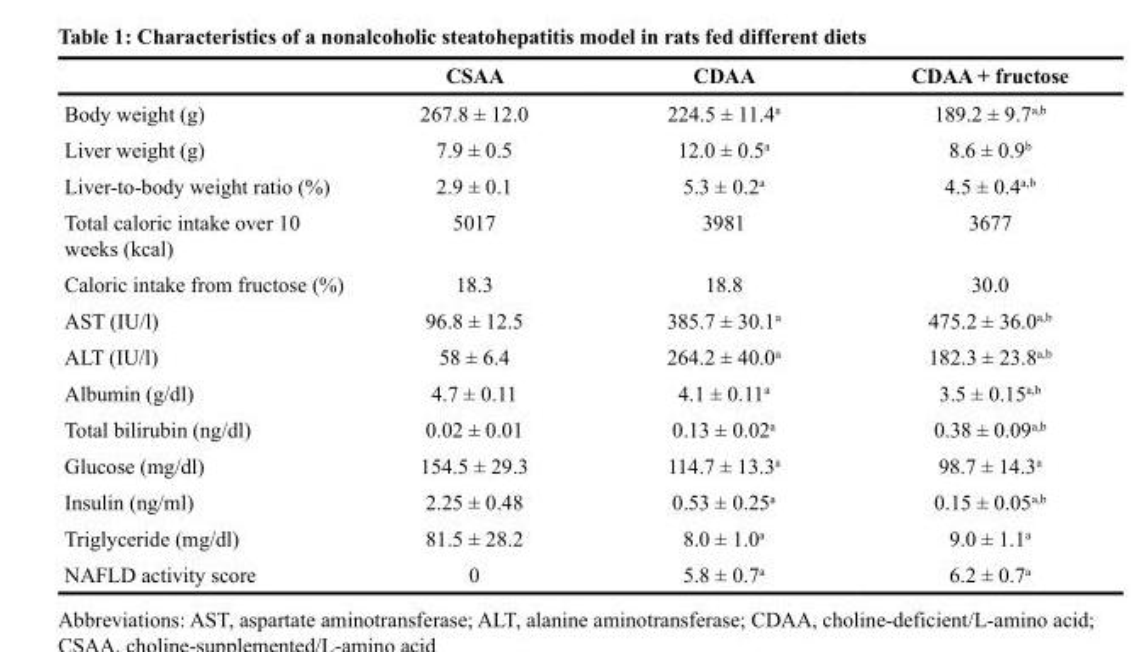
<table><thead><tr><td></td><td>CSAA</td><td>CDAA</td><td>CDAA + fructose</td></tr></thead><tbody><tr><td>Body weight (g)</td><td>267.8 ± 12.0</td><td>224.5 ± 11.4<sup>a</sup></td><td>189.2 ± 9.7<sup>a,b</sup></td></tr><tr><td>Liver weight (g)</td><td>7.9 ± 0.5</td><td>12.0 ± 0.5<sup>a</sup></td><td>8.6 ± 0.9<sup>b</sup></td></tr><tr><td>Liver-to-body weight ratio (%)</td><td>2.9 ± 0.1</td><td>5.3 ± 0.2<sup>a</sup></td><td>4.5 ± 0.4<sup>a,b</sup></td></tr><tr><td>Total caloric intake over 10 weeks (kcal)</td><td>5017</td><td>3981</td><td>3677</td></tr><tr><td>Caloric intake from fructose (%)</td><td>18.3</td><td>18.8</td><td>30.0</td></tr><tr><td>AST (IU/l)</td><td>96.8 ± 12.5</td><td>385.7 ± 30.1<sup>a</sup></td><td>475.2 ± 36.0<sup>a,b</sup></td></tr><tr><td>ALT (IU/l)</td><td>58 ± 6.4</td><td>264.2 ± 40.0<sup>a</sup></td><td>182.3 ± 23.8<sup>a,b</sup></td></tr><tr><td>Albumin (g/dl)</td><td>4.7 ± 0.11</td><td>4.1 ± 0.11<sup>a</sup></td><td>3.5 ± 0.15<sup>a,b</sup></td></tr><tr><td>Total bilirubin (ng/dl)</td><td>0.02 ± 0.01</td><td>0.13 ± 0.02<sup>a</sup></td><td>0.38 ± 0.09<sup>a,b</sup></td></tr><tr><td>Glucose (mg/dl)</td><td>154.5 ± 29.3</td><td>114.7 ± 13.3<sup>a</sup></td><td>98.7 ± 14.3<sup>a</sup></td></tr><tr><td>Insulin (ng/ml)</td><td>2.25 ± 0.48</td><td>0.53 ± 0.25<sup>a</sup></td><td>0.15 ± 0.05<sup>a,b</sup></td></tr><tr><td>Triglyceride (mg/dl)</td><td>81.5 ± 28.2</td><td>8.0 ± 1.0<sup>a</sup></td><td>9.0 ± 1.1<sup>a</sup></td></tr><tr><td>NAFLD activity score</td><td>0</td><td>5.8 ± 0.7<sup>a</sup></td><td>6.2 ± 0.7<sup>a</sup></td></tr></tbody></table>